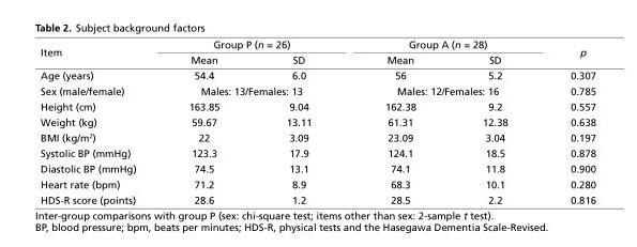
<table><thead><tr><td rowspan="2">Item</td><td colspan="2">Group P (n = 26)</td><td colspan="2">Group A (n = 28)</td><td rowspan="2">p</td></tr><tr><td>Mean</td><td>SD</td><td>Mean</td><td>SD</td></tr></thead><tbody><tr><td>Age (years)</td><td>54.4</td><td>6.0</td><td>56</td><td>5.2</td><td>0.307</td></tr><tr><td>Sex (male/female)</td><td colspan="2">Males: 13/Females: 13</td><td colspan="2">Males: 12/Females: 16</td><td>0.785</td></tr><tr><td>Height (cm)</td><td>163.85</td><td>9.04</td><td>162.38</td><td>9.2</td><td>0.557</td></tr><tr><td>Weight (kg)</td><td>59.67</td><td>13.11</td><td>61.31</td><td>12.38</td><td>0.638</td></tr><tr><td>BMI (kg/m<sup>2</sup>)</td><td>22</td><td>3.09</td><td>23.09</td><td>3.04</td><td>0.197</td></tr><tr><td>Systolic BP (mmHg)</td><td>123.3</td><td>17.9</td><td>124.1</td><td>18.5</td><td>0.878</td></tr><tr><td>Diastolic BP (mmHg)</td><td>74.5</td><td>13.1</td><td>74.1</td><td>11.8</td><td>0.900</td></tr><tr><td>Heart rate (bpm)</td><td>71.2</td><td>8.9</td><td>68.3</td><td>10.1</td><td>0.280</td></tr><tr><td>HDS-R score (points)</td><td>28.6</td><td>1.2</td><td>28.5</td><td>2.2</td><td>0.816</td></tr></tbody></table>